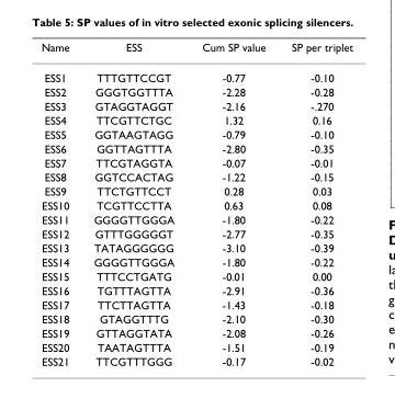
<table><thead><tr><td>Name</td><td>ESS</td><td>Cum SP value</td><td>SP per triplet</td></tr></thead><tbody><tr><td>ESS1</td><td>TTTGTTCCGT</td><td>-0.77</td><td>-0.10</td></tr><tr><td>ESS2</td><td>GGGTGGTTTA</td><td>-2.28</td><td>-0.28</td></tr><tr><td>ESS3</td><td>GTAGGTAGGT</td><td>-2.16</td><td>-.270</td></tr><tr><td>ESS4</td><td>TTCGTTCTGC</td><td>1.32</td><td>0.16</td></tr><tr><td>ESS5</td><td>GGTAAGTAGG</td><td>-0.79</td><td>-0.10</td></tr><tr><td>ESS6</td><td>GGTTAGTTTA</td><td>-2.80</td><td>-0.35</td></tr><tr><td>ESS7</td><td>TTCGTAGGTA</td><td>-0.07</td><td>-0.01</td></tr><tr><td>ESS8</td><td>GGTCCACTAG</td><td>-1.22</td><td>-0.15</td></tr><tr><td>ESS9</td><td>TTCTGTTCCT</td><td>0.28</td><td>0.03</td></tr><tr><td>ESS10</td><td>TCGTTCCTTA</td><td>0.63</td><td>0.08</td></tr><tr><td>ESS11</td><td>GGGGTTGGGA</td><td>-1.80</td><td>-0.22</td></tr><tr><td>ESS12</td><td>GTTTGGGGGT</td><td>-2.77</td><td>-0.35</td></tr><tr><td>ESS13</td><td>TATAGGGGGG</td><td>-3.10</td><td>-0.39</td></tr><tr><td>ESS14</td><td>GGGGTTGGGA</td><td>-1.80</td><td>-0.22</td></tr><tr><td>ESS15</td><td>TTTCCTGATG</td><td>-0.01</td><td>0.00</td></tr><tr><td>ESS16</td><td>TGTTTAGTTA</td><td>-2.91</td><td>-0.36</td></tr><tr><td>ESS17</td><td>TTCTTAGTTA</td><td>-1.43</td><td>-0.18</td></tr><tr><td>ESS18</td><td>GTAGGTTTG</td><td>-2.10</td><td>-0.30</td></tr><tr><td>ESS19</td><td>GTTAGGTATA</td><td>-2.08</td><td>-0.26</td></tr><tr><td>ESS20</td><td>TAATAGTTTA</td><td>-1.51</td><td>-0.19</td></tr><tr><td>ESS21</td><td>TTCGTTTGGG</td><td>-0.17</td><td>-0.02</td></tr></tbody></table>